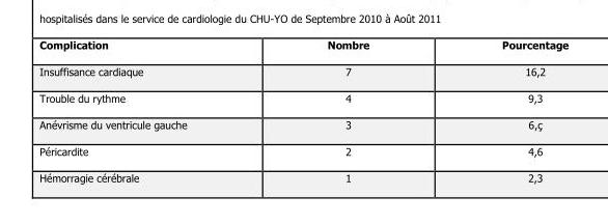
<table><thead><tr><td>Complication</td><td>Nombre</td><td>Pourcentage</td></tr></thead><tbody><tr><td>Insuffisance cardiaque</td><td>7</td><td>16,2</td></tr><tr><td>Trouble du rythme</td><td>4</td><td>9,3</td></tr><tr><td>Anévrisme du ventricule gauche</td><td>3</td><td>6,ç</td></tr><tr><td>Péricardite</td><td>2</td><td>4,6</td></tr><tr><td>Hémorragie cérébrale</td><td>1</td><td>2,3</td></tr></tbody></table>